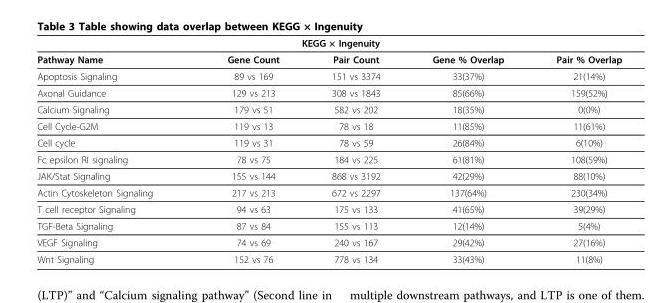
<table><thead><tr><td colspan="5">KEGG × Ingenuity</td></tr><tr><td>Pathway Name</td><td>Gene Count</td><td>Pair Count</td><td>Gene % Overlap</td><td>Pair % Overlap</td></tr></thead><tbody><tr><td>Apoptosis Signaling</td><td>89 vs 169</td><td>151 vs 3374</td><td>33(37%)</td><td>21(14%)</td></tr><tr><td>Axonal Guidance</td><td>129 vs 213</td><td>308 vs 1843</td><td>85(66%)</td><td>159(52%)</td></tr><tr><td>Calcium Signaling</td><td>179 vs 51</td><td>582 vs 202</td><td>18(35%)</td><td>0(0%)</td></tr><tr><td>Cell Cycle-G2M</td><td>119 vs 13</td><td>78 vs 18</td><td>11(85%)</td><td>11(61%)</td></tr><tr><td>Cell cycle</td><td>119 vs 31</td><td>78 vs 59</td><td>26(84%)</td><td>6(10%)</td></tr><tr><td>Fc epsilon RI signaling</td><td>78 vs 75</td><td>184 vs 225</td><td>61(81%)</td><td>108(59%)</td></tr><tr><td>JAK/Stat Signaling</td><td>155 vs 144</td><td>868 vs 3192</td><td>42(29%)</td><td>88(10%)</td></tr><tr><td>Actin Cytoskeleton Signaling</td><td>217 vs 213</td><td>672 vs 2297</td><td>137(64%)</td><td>230(34%)</td></tr><tr><td>T cell receptor Signaling</td><td>94 vs 63</td><td>175 vs 133</td><td>41(65%)</td><td>39(29%)</td></tr><tr><td>TGF-Beta Signaling</td><td>87 vs 84</td><td>155 vs 113</td><td>12(14%)</td><td>5(4%)</td></tr><tr><td>VEGF Signaling</td><td>74 vs 69</td><td>240 vs 167</td><td>29(42%)</td><td>27(16%)</td></tr><tr><td>Wnt Signaling</td><td>152 vs 76</td><td>778 vs 134</td><td>33(43%)</td><td>11(8%)</td></tr></tbody></table>